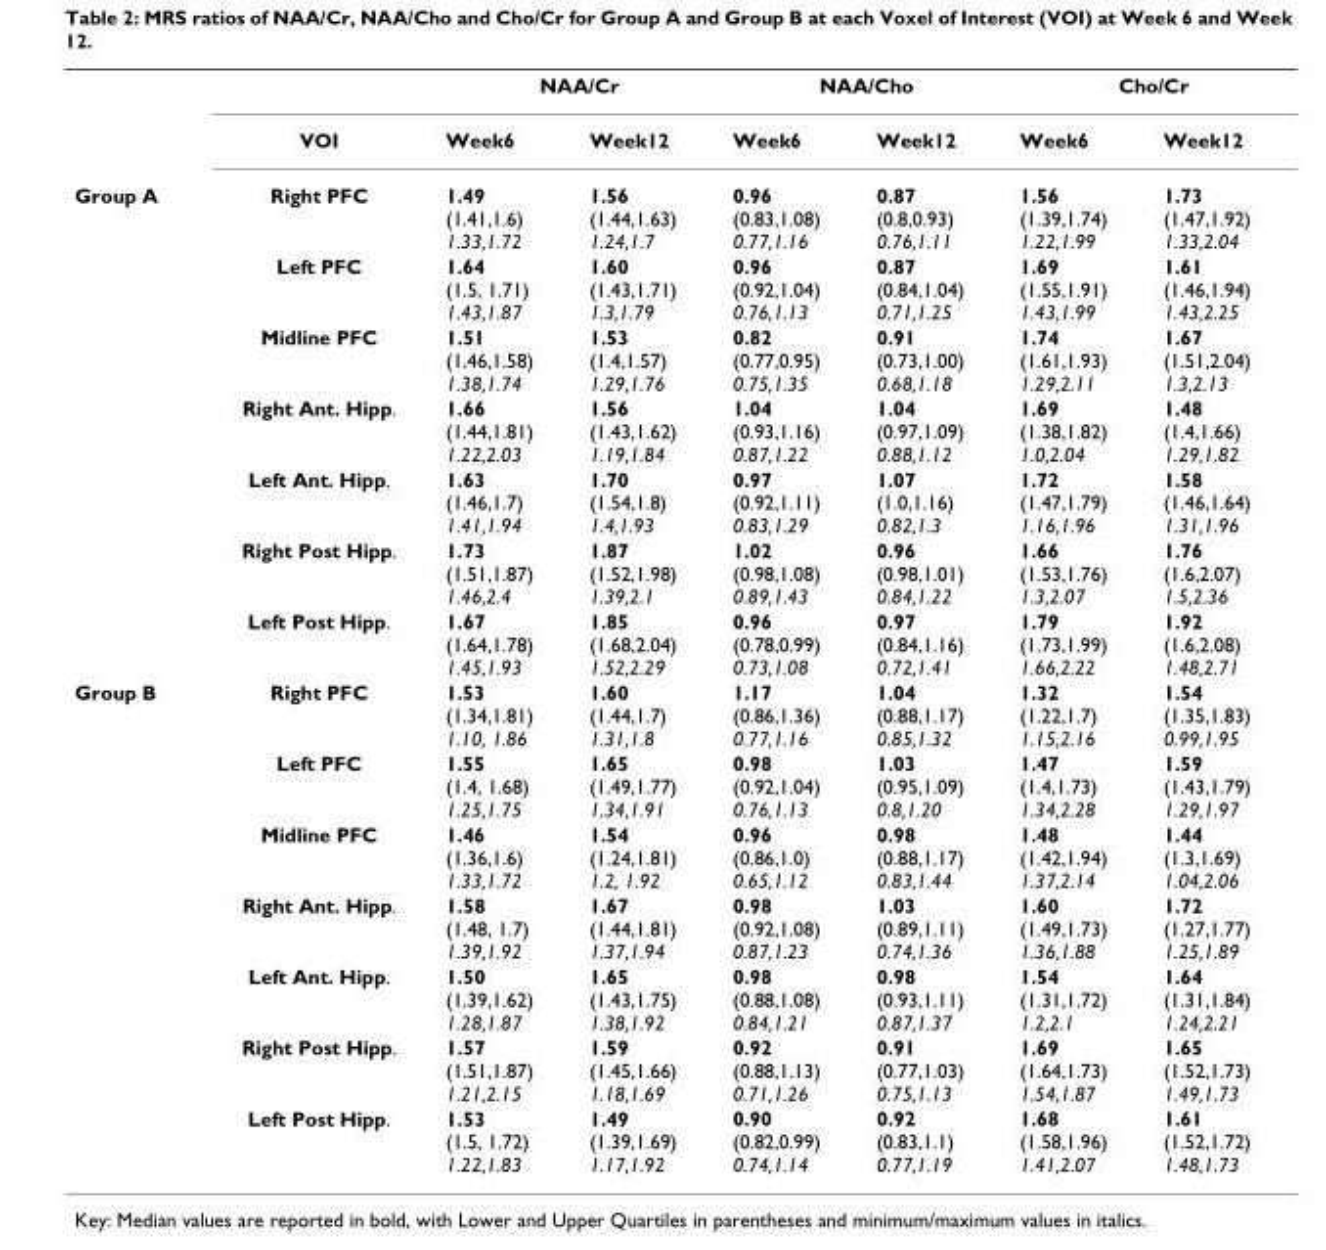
<table><thead><tr><td rowspan="2"></td><td rowspan="2">VOI</td><td colspan="2">NAA/Cr</td><td colspan="2">NAA/Cho</td><td colspan="2">Cho/Cr</td></tr><tr><td>Week6</td><td>Week12</td><td>Week6</td><td>Week12</td><td>Week6</td><td>Week12</td></tr></thead><tbody><tr><td rowspan="7">Group A</td><td>Right PFC</td><td>1.49 (1.41,1.6) 1.33,1.72</td><td>1.56 (1.44,1.63) 1.24,1.7</td><td>0.96 (0.83,1.08) 0.77,1.16</td><td>0.87 (0.8,0.93) 0.76,1.11</td><td>1.56 (1.39,1.74) 1.22,1.99</td><td>1.73 (1.47,1.92) 1.33,2.04</td></tr><tr><td>Left PFC</td><td>1.64 (1.5, 1.71) 1.43,1.87</td><td>1.60 (1.43,1.71) 1.3,1.79</td><td>0.96 (0.92,1.04) 0.76,1.13</td><td>0.87 (0.84,1.04) 0.71,1.25</td><td>1.69 (1.55,1.91) 1.43,1.99</td><td>1.61 (1.46,1.94) 1.43,2.25</td></tr><tr><td>Midline PFC</td><td>1.51 (1.46,1.58) 1.38,1.74</td><td>1.53 (1.4,1.57) 1.29,1.76</td><td>0.82 (0.77,0.95) 0.75,1.35</td><td>0.91 (0.73,1.00) 0.68,1.18</td><td>1.74 (1.61,1.93) 1.29,2.11</td><td>1.67 (1.51,2.04) 1.3,2.13</td></tr><tr><td>Right Ant. Hipp.</td><td>1.66 (1.44,1.81) 1.22,2.03</td><td>1.56 (1.43,1.62) 1.19,1.84</td><td>1.04 (0.93,1.16) 0.87,1.22</td><td>1.04 (0.97,1.09) 0.88,1.12</td><td>1.69 (1.38,1.82) 1.0,2.04</td><td>1.48 (1.4,1.66) 1.29,1.82</td></tr><tr><td>Left Ant. Hipp.</td><td>1.63 (1.46,1.7) 1.41,1.94</td><td>1.70 (1.54,1.8) 1.4,1.93</td><td>0.97 (0.92,1.11) 0.83,1.29</td><td>1.07 (1.0,1.16) 0.82,1.3</td><td>1.72 (1.47,1.79) 1.16,1.96</td><td>1.58 (1.46,1.64) 1.31,1.96</td></tr><tr><td>Right Post Hipp.</td><td>1.73 (1.51,1.87) 1.46,2.4</td><td>1.87 (1.52,1.98) 1.39,2.1</td><td>1.02 (0.98,1.08) 0.89,1.43</td><td>0.96 (0.98,1.01) 0.84,1.22</td><td>1.66 (1.53,1.76) 1.3,2.07</td><td>1.76 (1.6,2.07) 1.5,2.36</td></tr><tr><td>Left Post Hipp.</td><td>1.67 (1.64,1.78) 1.45,1.93</td><td>1.85 (1.68,2.04) 1.52,2.29</td><td>0.96 (0.78,0.99) 0.73,1.08</td><td>0.97 (0.84,1.16) 0.72,1.41</td><td>1.79 (1.73,1.99) 1.66,2.22</td><td>1.92 (1.6,2.08) 1.48,2.71</td></tr><tr><td rowspan="7">Group B</td><td>Right PFC</td><td>1.53 (1.34,1.81) 1.10, 1.86</td><td>1.60 (1.44,1.7) 1.31,1.8</td><td>1.17 (0.86,1.36) 0.77,1.16</td><td>1.04 (0.88,1.17) 0.85,1.32</td><td>1.32 (1.22,1.7) 1.15,2.16</td><td>1.54 (1.35,1.83) 0.99,1.95</td></tr><tr><td>Left PFC</td><td>1.55 (1.4, 1.68) 1.25,1.75</td><td>1.65 (1.49,1.77) 1.34,1.91</td><td>0.98 (0.92,1.04) 0.76,1.13</td><td>1.03 (0.95,1.09) 0.8,1.20</td><td>1.47 (1.4,1.73) 1.34,2.28</td><td>1.59 (1.43,1.79) 1.29,1.97</td></tr><tr><td>Midline PFC</td><td>1.46 (1.36,1.6) 1.33,1.72</td><td>1.54 (1.24,1.81) 1.2, 1.92</td><td>0.96 (0.86,1.0) 0.65,1.12</td><td>0.98 (0.88,1.17) 0.83,1.44</td><td>1.48 (1.42,1.94) 1.37,2.14</td><td>1.44 (1.3,1.69) 1.04,2.06</td></tr><tr><td>Right Ant. Hipp.</td><td>1.58 (1.48, 1.7) 1.39,1.92</td><td>1.67 (1.44,1.81) 1.37,1.94</td><td>0.98 (0.92,1.08) 0.87,1.23</td><td>1.03 (0.89,1.11) 0.74,1.36</td><td>1.60 (1.49,1.73) 1.36,1.88</td><td>1.72 (1.27,1.77) 1.25,1.89</td></tr><tr><td>Left Ant. Hipp.</td><td>1.50 (1.39,1.62) 1.28,1.87</td><td>1.65 (1.43,1.75) 1.38,1.92</td><td>0.98 (0.88,1.08) 0.84,1.21</td><td>0.98 (0.93,1.11) 0.87,1.37</td><td>1.54 (1.31,1.72) 1.2,2.1</td><td>1.64 (1.31,1.84) 1.24,2.21</td></tr><tr><td>Right Post Hipp.</td><td>1.57 (1.51,1.87) 1.21,2.15</td><td>1.59 (1.45,1.66) 1.18,1.69</td><td>0.92 (0.88,1.13) 0.71,1.26</td><td>0.91 (0.77,1.03) 0.75,1.13</td><td>1.69 (1.64,1.73) 1.54,1.87</td><td>1.65 (1.52,1.73) 1.49,1.73</td></tr><tr><td>Left Post Hipp.</td><td>1.53 (1.5, 1.72) 1.22,1.83</td><td>1.49 (1.39,1.69) 1.17,1.92</td><td>0.90 (0.82,0.99) 0.74,1.14</td><td>0.92 (0.83,1.1) 0.77,1.19</td><td>1.68 (1.58,1.96) 1.41,2.07</td><td>1.61 (1.52,1.72) 1.48,1.73</td></tr></tbody></table>